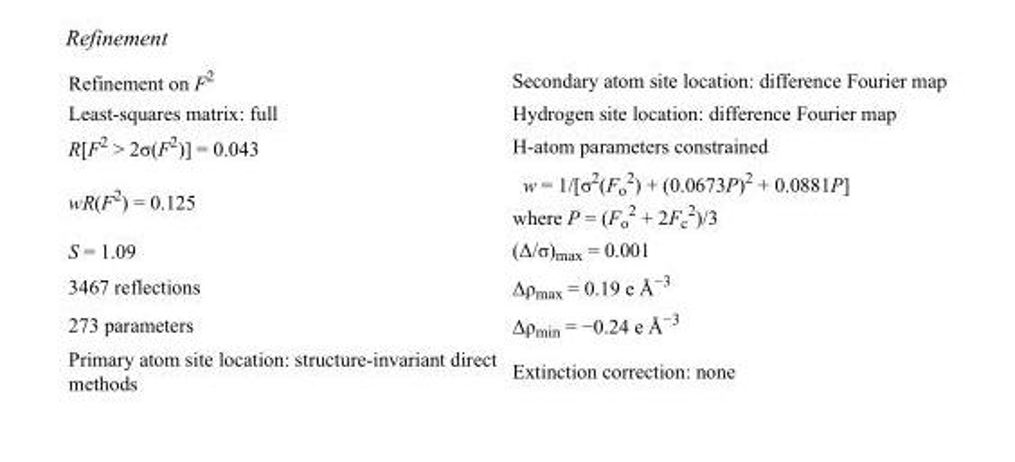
<table><tbody><tr><td>Refinement on F<sup>2</sup></td><td>Secondary atom site location: difference Fourier map</td></tr><tr><td>Least-squares matrix: full</td><td>Hydrogen site location: difference Fourier map</td></tr><tr><td>R[F<sup>2</sup> &gt; 2σ(F<sup>2</sup>)] = 0.043</td><td>H-atom parameters constrained</td></tr><tr><td>wR(F<sup>2</sup>) = 0.125</td><td>w = 1/[σ<sup>2</sup>(F<sub>o</sub> <sup>2</sup>) + (0.0673P)<sup>2</sup> + 0.0881P] where P = (F<sub>o</sub> <sup>2</sup> + 2F<sub>c</sub> <sup>2</sup>)/3</td></tr><tr><td>S = 1.09</td><td>(Δ/σ)<sub>max</sub> = 0.001</td></tr><tr><td>3467 reflections</td><td>Δρ<sub>max</sub> = 0.19 e Å<sup>−3</sup></td></tr><tr><td>273 parameters</td><td>Δρ<sub>min</sub> = −0.24 e Å<sup>−3</sup></td></tr><tr><td>Primary atom site location: structure-invariant direct methods</td><td>Extinction correction: none</td></tr></tbody></table>